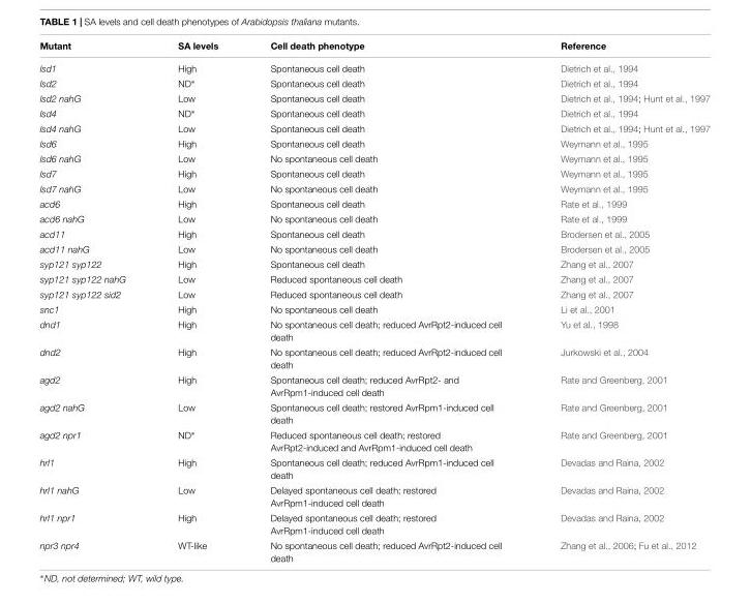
<table><thead><tr><td>Mutant</td><td>SA levels</td><td>Cell death phenotype</td><td>Reference</td></tr></thead><tbody><tr><td>lsd1</td><td>High</td><td>Spontaneous cell death</td><td>Dietrich et al., 1994</td></tr><tr><td>lsd2</td><td>ND∗</td><td>Spontaneous cell death</td><td>Dietrich et al., 1994</td></tr><tr><td>lsd2 nahG</td><td>Low</td><td>Spontaneous cell death</td><td>Dietrich et al., 1994; Hunt et al., 1997</td></tr><tr><td>lsd4</td><td>ND∗</td><td>Spontaneous cell death</td><td>Dietrich et al., 1994</td></tr><tr><td>lsd4 nahG</td><td>Low</td><td>Spontaneous cell death</td><td>Dietrich et al., 1994; Hunt et al., 1997</td></tr><tr><td>lsd6</td><td>High</td><td>Spontaneous cell death</td><td>Weymann et al., 1995</td></tr><tr><td>lsd6 nahG</td><td>Low</td><td>No spontaneous cell death</td><td>Weymann et al., 1995</td></tr><tr><td>lsd7</td><td>High</td><td>Spontaneous cell death</td><td>Weymann et al., 1995</td></tr><tr><td>lsd7 nahG</td><td>Low</td><td>No spontaneous cell death</td><td>Weymann et al., 1995</td></tr><tr><td>acd6</td><td>High</td><td>Spontaneous cell death</td><td>Rate et al., 1999</td></tr><tr><td>acd6 nahG</td><td>Low</td><td>No spontaneous cell death</td><td>Rate et al., 1999</td></tr><tr><td>acd11</td><td>High</td><td>Spontaneous cell death</td><td>Brodersen et al., 2005</td></tr><tr><td>acd11 nahG</td><td>Low</td><td>No spontaneous cell death</td><td>Brodersen et al., 2005</td></tr><tr><td>syp121 syp122</td><td>High</td><td>Spontaneous cell death</td><td>Zhang et al., 2007</td></tr><tr><td>syp121 syp122 nahG</td><td>Low</td><td>Reduced spontaneous cell death</td><td>Zhang et al., 2007</td></tr><tr><td>syp121 syp122 sid2</td><td>Low</td><td>Reduced spontaneous cell death</td><td>Zhang et al., 2007</td></tr><tr><td>snc1</td><td>High</td><td>No spontaneous cell death</td><td>Li et al., 2001</td></tr><tr><td>dnd1</td><td>High</td><td>No spontaneous cell death; reduced AvrRpt2-induced cell death</td><td>Yu et al., 1998</td></tr><tr><td>dnd2</td><td>High</td><td>No spontaneous cell death; reduced AvrRpt2-induced cell death</td><td>Jurkowski et al., 2004</td></tr><tr><td>agd2</td><td>High</td><td>Spontaneous cell death; reduced AvrRpt2- and AvrRpm1-induced cell death</td><td>Rate and Greenberg, 2001</td></tr><tr><td>agd2 nahG</td><td>Low</td><td>Spontaneous cell death; restored AvrRpm1-induced cell death</td><td>Rate and Greenberg, 2001</td></tr><tr><td>agd2 npr1</td><td>ND∗</td><td>Reduced spontaneous cell death; restored AvrRpt2-induced and AvrRpm1-induced cell death</td><td>Rate and Greenberg, 2001</td></tr><tr><td>hrl1</td><td>High</td><td>Spontaneous cell death; reduced AvrRpm1-induced cell death</td><td>Devadas and Raina, 2002</td></tr><tr><td>hrl1 nahG</td><td>Low</td><td>Delayed spontaneous cell death; restored AvrRpm1-induced cell death</td><td>Devadas and Raina, 2002</td></tr><tr><td>hrl1 npr1</td><td>High</td><td>Delayed spontaneous cell death; restored AvrRpm1-induced cell death</td><td>Devadas and Raina, 2002</td></tr><tr><td>npr3 npr4</td><td>WT-like</td><td>No spontaneous cell death; reduced AvrRpt2-induced cell death</td><td>Zhang et al., 2006; Fu et al., 2012</td></tr></tbody></table>